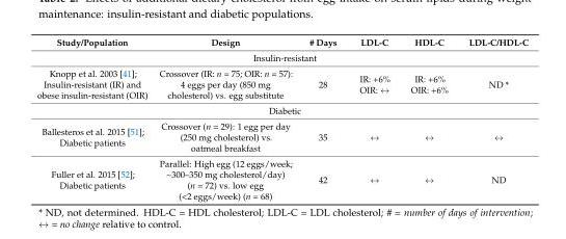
<table><thead><tr><td>Study/Population</td><td>Design</td><td># Days</td><td>LDL-C</td><td>HDL-C</td><td>LDL-C/HDL-C</td></tr></thead><tbody><tr><td colspan="6">Insulin-resistant</td></tr><tr><td>Knopp et al. 2003 [41]; Insulin-resistant (IR) and obese insulin-resistant (OIR)</td><td>Crossover (IR: n = 75; OIR: n = 57): 4 eggs per day (850 mg cholesterol) vs. egg substitute</td><td>28</td><td>IR: +6% OIR: ↔</td><td>IR: +6% OIR: +6%</td><td>ND *</td></tr><tr><td colspan="6">Diabetic</td></tr><tr><td>Ballesteros et al. 2015 [51]; Diabetic patients</td><td>Crossover (n = 29): 1 egg per day (250 mg cholesterol) vs. oatmeal breakfast</td><td>35</td><td>↔</td><td>↔</td><td>↔</td></tr><tr><td>Fuller et al. 2015 [52]; Diabetic patients</td><td>Parallel: High egg (12 eggs/week; ~300–350 mg cholesterol/day) (n = 72) vs. low egg (&lt;2 eggs/week) (n = 68)</td><td>42</td><td>↔</td><td>↔</td><td>ND</td></tr></tbody></table>